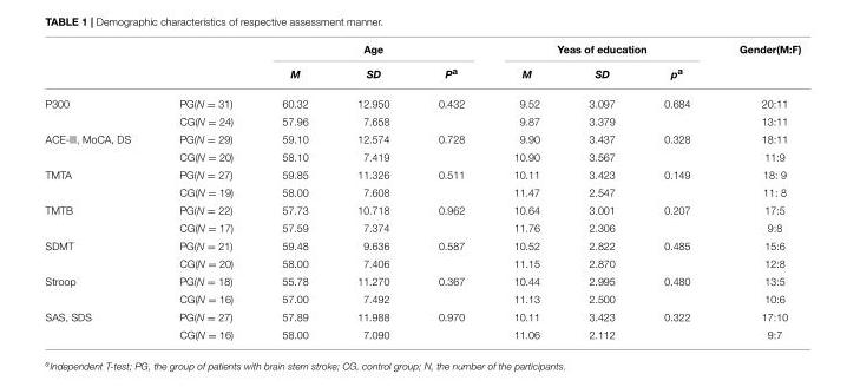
<table><thead><tr><td rowspan="2"></td><td rowspan="2"></td><td colspan="3">Age</td><td colspan="3">Yeas of education</td><td rowspan="2">Gender(M:F)</td></tr><tr><td>M</td><td>SD</td><td>P<sup>a</sup></td><td>M</td><td>SD</td><td>p<sup>a</sup></td></tr></thead><tbody><tr><td rowspan="2">P300</td><td>PG(N = 31)</td><td>60.32</td><td>12.950</td><td>0.432</td><td>9.52</td><td>3.097</td><td>0.684</td><td>20:11</td></tr><tr><td>CG(N = 24)</td><td>57.96</td><td>7.658</td><td></td><td>9.87</td><td>3.379</td><td></td><td>13:11</td></tr><tr><td rowspan="2">ACE-III, MoCA, DS</td><td>PG(N = 29)</td><td>59.10</td><td>12.574</td><td>0.728</td><td>9.90</td><td>3.437</td><td>0.328</td><td>18:11</td></tr><tr><td>CG(N = 20)</td><td>58.10</td><td>7.419</td><td></td><td>10.90</td><td>3.567</td><td></td><td>11:9</td></tr><tr><td rowspan="2">TMTA</td><td>PG(N = 27)</td><td>59.85</td><td>11.326</td><td>0.511</td><td>10.11</td><td>3.423</td><td>0.149</td><td>18: 9</td></tr><tr><td>CG(N = 19)</td><td>58.00</td><td>7.608</td><td></td><td>11.47</td><td>2.547</td><td></td><td>11: 8</td></tr><tr><td rowspan="2">TMTB</td><td>PG(N = 22)</td><td>57.73</td><td>10.718</td><td>0.962</td><td>10.64</td><td>3.001</td><td>0.207</td><td>17:5</td></tr><tr><td>CG(N = 17)</td><td>57.59</td><td>7.374</td><td></td><td>11.76</td><td>2.306</td><td></td><td>9:8</td></tr><tr><td rowspan="2">SDMT</td><td>PG(N = 21)</td><td>59.48</td><td>9.636</td><td>0.587</td><td>10.52</td><td>2.822</td><td>0.485</td><td>15:6</td></tr><tr><td>CG(N = 20)</td><td>58.00</td><td>7.406</td><td></td><td>11.15</td><td>2.870</td><td></td><td>12:8</td></tr><tr><td rowspan="2">Stroop</td><td>PG(N = 18)</td><td>55.78</td><td>11.270</td><td>0.367</td><td>10.44</td><td>2.995</td><td>0.480</td><td>13:5</td></tr><tr><td>CG(N = 16)</td><td>57.00</td><td>7.492</td><td></td><td>11.13</td><td>2.500</td><td></td><td>10:6</td></tr><tr><td rowspan="2">SAS, SDS</td><td>PG(N = 27)</td><td>57.89</td><td>11.988</td><td>0.970</td><td>10.11</td><td>3.423</td><td>0.322</td><td>17:10</td></tr><tr><td>CG(N = 16)</td><td>58.00</td><td>7.090</td><td></td><td>11.06</td><td>2.112</td><td></td><td>9:7</td></tr></tbody></table>